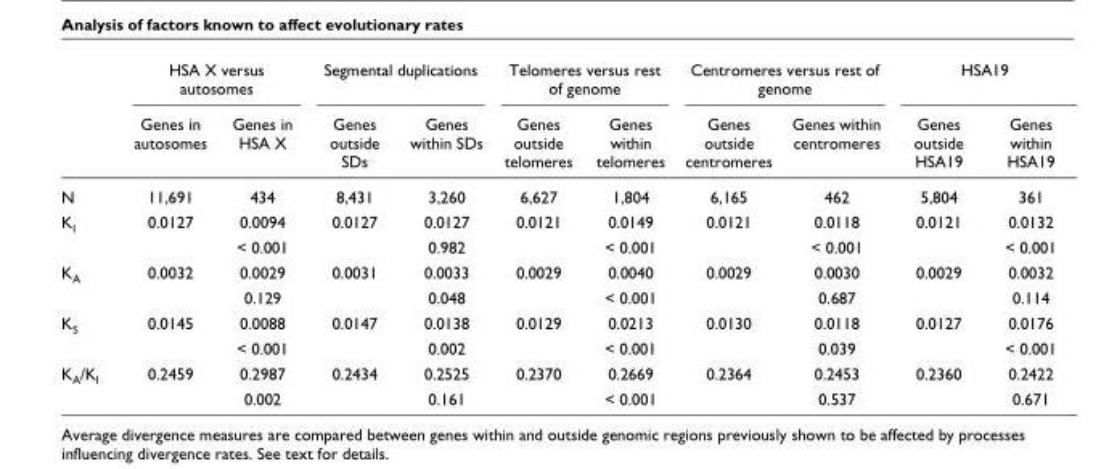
<table><thead><tr><td rowspan="2"></td><td colspan="2">HSA X versus autosomes</td><td colspan="2">Segmental duplications</td><td colspan="2">Telomeres versus rest of genome</td><td colspan="2">Centromeres versus rest of genome</td><td colspan="2">HSA19</td></tr><tr><td>Genes in autosomes</td><td>Genes in HSA X</td><td>Genes outside SDs</td><td>Genes within SDs</td><td>Genes outside telomeres</td><td>Genes within telomeres</td><td>Genes outside centromeres</td><td>Genes within centromeres</td><td>Genes outside HSA19</td><td>Genes within HSA19</td></tr></thead><tbody><tr><td>N</td><td>11,691</td><td>434</td><td>8,431</td><td>3,260</td><td>6,627</td><td>1,804</td><td>6,165</td><td>462</td><td>5,804</td><td>361</td></tr><tr><td rowspan="2">K<sub>I</sub></td><td>0.0127</td><td>0.0094</td><td>0.0127</td><td>0.0127</td><td>0.0121</td><td>0.0149</td><td>0.0121</td><td>0.0118</td><td>0.0121</td><td>0.0132</td></tr><tr><td></td><td>&lt; 0.001</td><td></td><td>0.982</td><td></td><td>&lt; 0.001</td><td></td><td>&lt; 0.001</td><td></td><td>&lt; 0.001</td></tr><tr><td rowspan="2">K<sub>A</sub></td><td>0.0032</td><td>0.0029</td><td>0.0031</td><td>0.0033</td><td>0.0029</td><td>0.0040</td><td>0.0029</td><td>0.0030</td><td>0.0029</td><td>0.0032</td></tr><tr><td></td><td>0.129</td><td></td><td>0.048</td><td></td><td>&lt; 0.001</td><td></td><td>0.687</td><td></td><td>0.114</td></tr><tr><td rowspan="2">K<sub>S</sub></td><td>0.0145</td><td>0.0088</td><td>0.0147</td><td>0.0138</td><td>0.0129</td><td>0.0213</td><td>0.0130</td><td>0.0118</td><td>0.0127</td><td>0.0176</td></tr><tr><td></td><td>&lt; 0.001</td><td></td><td>0.002</td><td></td><td>&lt; 0.001</td><td></td><td>0.039</td><td></td><td>&lt; 0.001</td></tr><tr><td rowspan="2">K<sub>A</sub>/K<sub>I</sub></td><td>0.2459</td><td>0.2987</td><td>0.2434</td><td>0.2525</td><td>0.2370</td><td>0.2669</td><td>0.2364</td><td>0.2453</td><td>0.2360</td><td>0.2422</td></tr><tr><td></td><td>0.002</td><td></td><td>0.161</td><td></td><td>&lt; 0.001</td><td></td><td>0.537</td><td></td><td>0.671</td></tr></tbody></table>